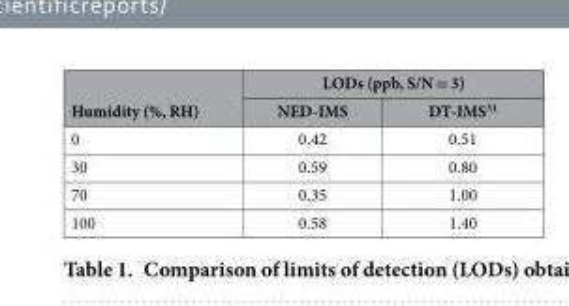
<table><thead><tr><td rowspan="2">Humidity (%, RH)</td><td colspan="2">LODs (ppb, S/N = 3)</td></tr><tr><td>NED-IMS</td><td>DT-IMS<sup>31</sup></td></tr></thead><tbody><tr><td>0</td><td>0.42</td><td>0.51</td></tr><tr><td>30</td><td>0.59</td><td>0.80</td></tr><tr><td>70</td><td>0.35</td><td>1.00</td></tr><tr><td>100</td><td>0.58</td><td>1.40</td></tr></tbody></table>